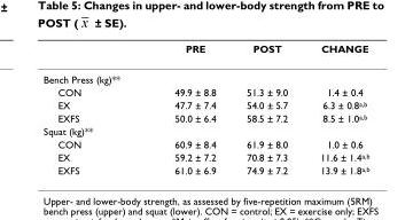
<table><thead><tr><td></td><td>PRE</td><td>POST</td><td>CHANGE</td></tr></thead><tbody><tr><td colspan="4">Bench Press (kg)**</td></tr><tr><td>CON</td><td>49.9 ± 8.8</td><td>51.3 ± 9.0</td><td>1.4 ± 0.4</td></tr><tr><td>EX</td><td>47.7 ± 7.4</td><td>54.0 ± 5.7</td><td>6.3 ± 0.8<sup>a,b</sup></td></tr><tr><td>EXFS</td><td>50.0 ± 6.4</td><td>58.5 ± 7.2</td><td>8.5 ± 1.0<sup>a,b</sup></td></tr><tr><td colspan="4">Squat (kg)**</td></tr><tr><td>CON</td><td>60.9 ± 8.4</td><td>61.9 ± 8.0</td><td>1.0 ± 0.6</td></tr><tr><td>EX</td><td>59.2 ± 7.2</td><td>70.8 ± 7.3</td><td>11.6 ± 1.4<sup>a,b</sup></td></tr><tr><td>EXFS</td><td>61.0 ± 6.9</td><td>74.9 ± 7.2</td><td>13.9 ± 1.8<sup>a,b</sup></td></tr></tbody></table>